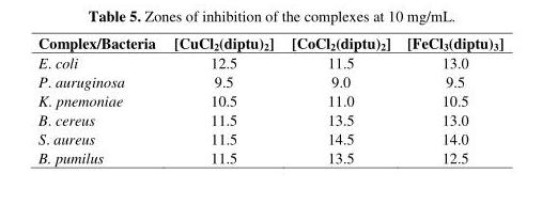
<table><thead><tr><td>Complex/Bacteria</td><td>[CuCl<sub>2</sub>(diptu)<sub>2</sub>]</td><td>[CoCl<sub>2</sub>(diptu)<sub>2</sub>]</td><td>[FeCl<sub>3</sub>(diptu)<sub>3</sub>]</td></tr></thead><tbody><tr><td>E. coli</td><td>12.5</td><td>11.5</td><td>13.0</td></tr><tr><td>P. auruginosa</td><td>9.5</td><td>9.0</td><td>9.5</td></tr><tr><td>K. pnemoniae</td><td>10.5</td><td>11.0</td><td>10.5</td></tr><tr><td>B. cereus</td><td>11.5</td><td>13.5</td><td>13.0</td></tr><tr><td>S. aureus</td><td>11.5</td><td>14.5</td><td>14.0</td></tr><tr><td>B. pumilus</td><td>11.5</td><td>13.5</td><td>12.5</td></tr></tbody></table>